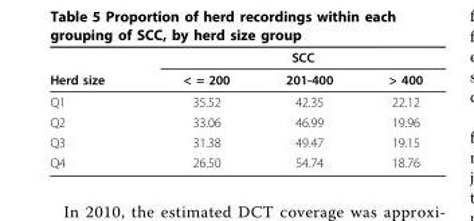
<table><thead><tr><td rowspan="2">Herd size</td><td colspan="3">SCC</td></tr><tr><td>&lt; = 200</td><td>201-400</td><td>&gt; 400</td></tr></thead><tbody><tr><td>Q1</td><td>35.52</td><td>42.35</td><td>22.12</td></tr><tr><td>Q2</td><td>33.06</td><td>46.99</td><td>19.96</td></tr><tr><td>Q3</td><td>31.38</td><td>49.47</td><td>19.15</td></tr><tr><td>Q4</td><td>26.50</td><td>54.74</td><td>18.76</td></tr></tbody></table>